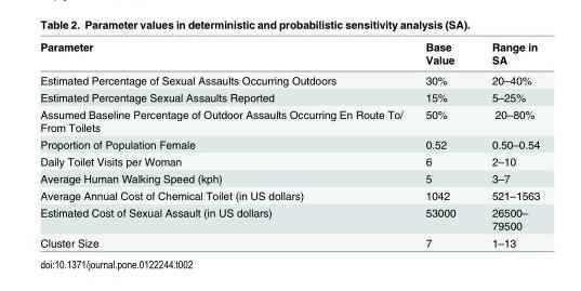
<table><thead><tr><td>Parameter</td><td>Base Value</td><td>Range in SA</td></tr></thead><tbody><tr><td>Estimated Percentage of Sexual Assaults Occurring Outdoors</td><td>30%</td><td>20–40%</td></tr><tr><td>Estimated Percentage Sexual Assaults Reported</td><td>15%</td><td>5–25%</td></tr><tr><td>Assumed Baseline Percentage of Outdoor Assaults Occurring En Route To/ From Toilets</td><td>50%</td><td>20–80%</td></tr><tr><td>Proportion of Population Female</td><td>0.52</td><td>0.50–0.54</td></tr><tr><td>Daily Toilet Visits per Woman</td><td>6</td><td>2–10</td></tr><tr><td>Average Human Walking Speed (kph)</td><td>5</td><td>3–7</td></tr><tr><td>Average Annual Cost of Chemical Toilet (in US dollars)</td><td>1042</td><td>521–1563</td></tr><tr><td>Estimated Cost of Sexual Assault (in US dollars)</td><td>53000</td><td>26500– 79500</td></tr><tr><td>Cluster Size</td><td>7</td><td>1–13</td></tr></tbody></table>